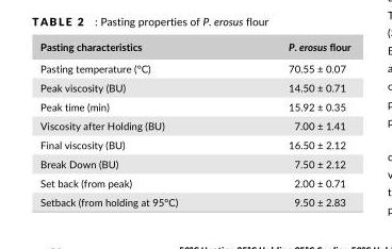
<table><thead><tr><td>Pasting characteristics</td><td>P. erosus flour</td></tr></thead><tbody><tr><td>Pasting temperature (°C)</td><td>70.55 ± 0.07</td></tr><tr><td>Peak viscosity (BU)</td><td>14.50 ± 0.71</td></tr><tr><td>Peak time (min)</td><td>15.92 ± 0.35</td></tr><tr><td>Viscosity after Holding (BU)</td><td>7.00 ± 1.41</td></tr><tr><td>Final viscosity (BU)</td><td>16.50 ± 2.12</td></tr><tr><td>Break Down (BU)</td><td>7.50 ± 2.12</td></tr><tr><td>Set back (from peak)</td><td>2.00 ± 0.71</td></tr><tr><td>Setback (from holding at 95°C)</td><td>9.50 ± 2.83</td></tr></tbody></table>